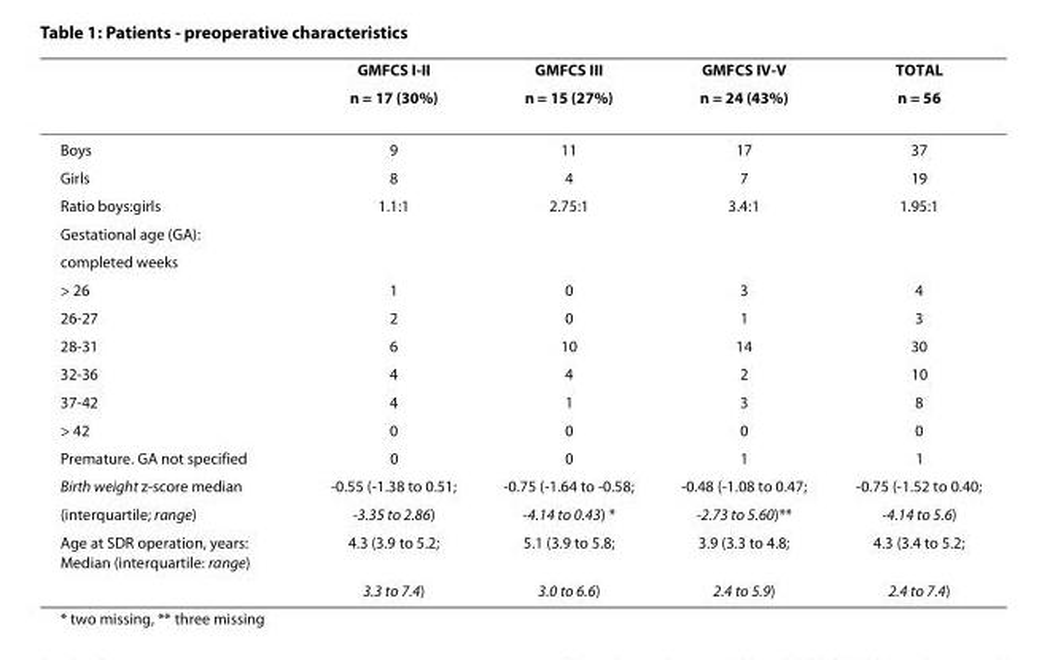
<table><thead><tr><td rowspan="2"></td><td rowspan="2">GMFCS I-II n = 17 (30%)</td><td rowspan="2">GMFCS III n = 15 (27%)</td><td rowspan="2">GMFCS IV-V n = 24 (43%)</td><td rowspan="2">TOTAL n = 56</td></tr><tr></tr></thead><tbody><tr><td>Boys</td><td>9</td><td>11</td><td>17</td><td>37</td></tr><tr><td>Girls</td><td>8</td><td>4</td><td>7</td><td>19</td></tr><tr><td>Ratio boys:girls</td><td>1.1:1</td><td>2.75:1</td><td>3.4:1</td><td>1.95:1</td></tr><tr><td colspan="5">Gestational age (GA):</td></tr><tr><td colspan="5">completed weeks</td></tr><tr><td>&gt; 26</td><td>1</td><td>0</td><td>3</td><td>4</td></tr><tr><td>26-27</td><td>2</td><td>0</td><td>1</td><td>3</td></tr><tr><td>28-31</td><td>6</td><td>10</td><td>14</td><td>30</td></tr><tr><td>32-36</td><td>4</td><td>4</td><td>2</td><td>10</td></tr><tr><td>37-42</td><td>4</td><td>1</td><td>3</td><td>8</td></tr><tr><td>&gt; 42</td><td>0</td><td>0</td><td>0</td><td>0</td></tr><tr><td>Premature. GA not specified</td><td>0</td><td>0</td><td>1</td><td>1</td></tr><tr><td>Birth weight z-score median</td><td>-0.55 (-1.38 to 0.51;</td><td>-0.75 (-1.64 to -0.58;</td><td>-0.48 (-1.08 to 0.47;</td><td>-0.75 (-1.52 to 0.40;</td></tr><tr><td>(interquartile; range)</td><td>-3.35 to 2.86)</td><td>-4.14 to 0.43) *</td><td>-2.73 to 5.60)**</td><td>-4.14 to 5.6)</td></tr><tr><td rowspan="2">Age at SDR operation, years: Median (interquartile: range)</td><td>4.3 (3.9 to 5.2;</td><td>5.1 (3.9 to 5.8;</td><td>3.9 (3.3 to 4.8;</td><td>4.3 (3.4 to 5.2;</td></tr><tr><td>3.3 to 7.4)</td><td>3.0 to 6.6)</td><td>2.4 to 5.9)</td><td>2.4 to 7.4)</td></tr></tbody></table>